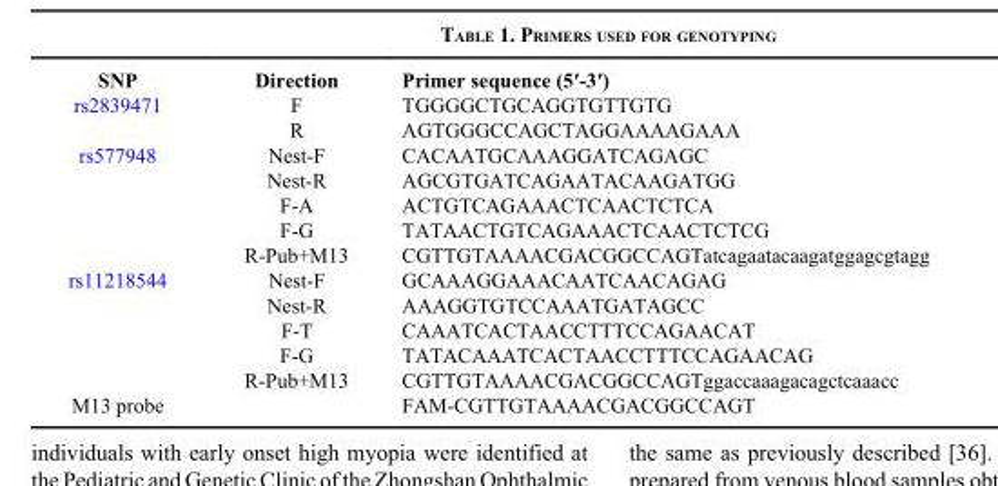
<table><thead><tr><td>SNP</td><td>Direction</td><td>Primer sequence (5′-3′)</td></tr></thead><tbody><tr><td rowspan="2">rs2839471</td><td>F</td><td>TGGGGCTGCAGGTGTTGTG</td></tr><tr><td>R</td><td>AGTGGGCCAGCTAGGAAAAGAAA</td></tr><tr><td rowspan="5">rs577948</td><td>Nest-F</td><td>CACAATGCAAAGGATCAGAGC</td></tr><tr><td>Nest-R</td><td>AGCGTGATCAGAATACAAGATGG</td></tr><tr><td>F-A</td><td>ACTGTCAGAAACTCAACTCTCA</td></tr><tr><td>F-G</td><td>TATAACTGTCAGAAACTCAACTCTCG</td></tr><tr><td>R-Pub+M13</td><td>CGTTGTAAAACGACGGCCAGTatcagaatacaagatggagcgtagg</td></tr><tr><td rowspan="5">rs11218544</td><td>Nest-F</td><td>GCAAAGGAAACAATCAACAGAG</td></tr><tr><td>Nest-R</td><td>AAAGGTGTCCAAATGATAGCC</td></tr><tr><td>F-T</td><td>CAAATCACTAACCTTTCCAGAACAT</td></tr><tr><td>F-G</td><td>TATACAAATCACTAACCTTTCCAGAACAG</td></tr><tr><td>R-Pub+M13</td><td>CGTTGTAAAACGACGGCCAGTggaccaaagacagctcaaacc</td></tr><tr><td>M13 probe</td><td></td><td>FAM-CGTTGTAAAACGACGGCCAGT</td></tr></tbody></table>